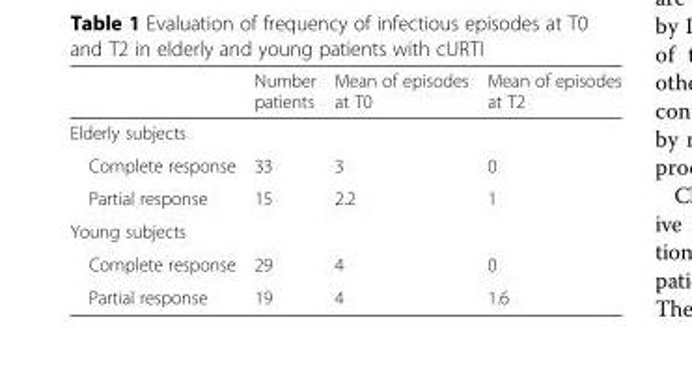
<table><thead><tr><td></td><td>Number patients</td><td>Mean of episodes at T0</td><td>Mean of episodes at T2</td></tr></thead><tbody><tr><td colspan="4">Elderly subjects</td></tr><tr><td>Complete response</td><td>33</td><td>3</td><td>0</td></tr><tr><td>Partial response</td><td>15</td><td>2.2</td><td>1</td></tr><tr><td colspan="4">Young subjects</td></tr><tr><td>Complete response</td><td>29</td><td>4</td><td>0</td></tr><tr><td>Partial response</td><td>19</td><td>4</td><td>1.6</td></tr></tbody></table>